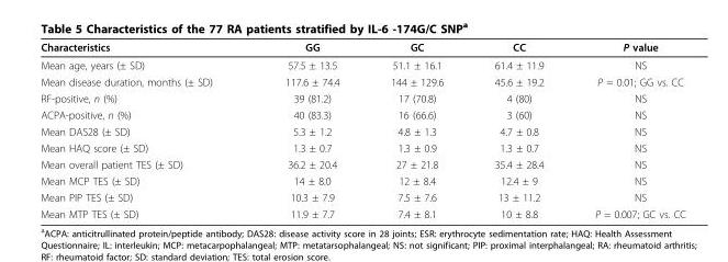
<table><thead><tr><td>Characteristics</td><td>GG</td><td>GC</td><td>CC</td><td>P value</td></tr></thead><tbody><tr><td>Mean age, years (± SD)</td><td>57.5 ± 13.5</td><td>51.1 ± 16.1</td><td>61.4 ± 11.9</td><td>NS</td></tr><tr><td>Mean disease duration, months (± SD)</td><td>117.6 ± 74.4</td><td>144 ± 129.6</td><td>45.6 ± 19.2</td><td>P = 0.01; GG vs. CC</td></tr><tr><td>RF-positive, n (%)</td><td>39 (81.2)</td><td>17 (70.8)</td><td>4 (80)</td><td>NS</td></tr><tr><td>ACPA-positive, n (%)</td><td>40 (83.3)</td><td>16 (66.6)</td><td>3 (60)</td><td>NS</td></tr><tr><td>Mean DAS28 (± SD)</td><td>5.3 ± 1.2</td><td>4.8 ± 1.3</td><td>4.7 ± 0.8</td><td>NS</td></tr><tr><td>Mean HAQ score (± SD)</td><td>1.3 ± 0.7</td><td>1.3 ± 0.9</td><td>1.3 ± 0.7</td><td>NS</td></tr><tr><td>Mean overall patient TES (± SD)</td><td>36.2 ± 20.4</td><td>27 ± 21.8</td><td>35.4 ± 28.4</td><td>NS</td></tr><tr><td>Mean MCP TES (± SD)</td><td>14 ± 8.0</td><td>12 ± 8.4</td><td>12.4 ± 9</td><td>NS</td></tr><tr><td>Mean PIP TES (± SD)</td><td>10.3 ± 7.9</td><td>7.5 ± 7.6</td><td>13 ± 11.2</td><td>NS</td></tr><tr><td>Mean MTP TES (± SD)</td><td>11.9 ± 7.7</td><td>7.4 ± 8.1</td><td>10 ± 8.8</td><td>P = 0.007; GC vs. CC</td></tr></tbody></table>